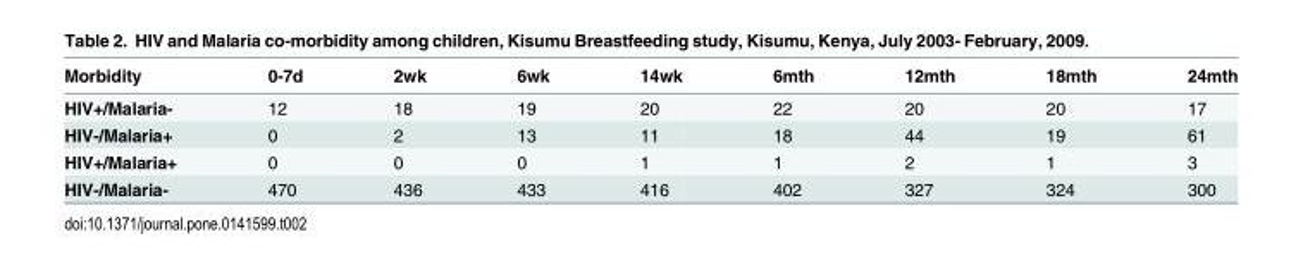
<table><thead><tr><td>Morbidity</td><td>0-7d</td><td>2wk</td><td>6wk</td><td>14wk</td><td>6mth</td><td>12mth</td><td>18mth</td><td>24mth</td></tr></thead><tbody><tr><td>HIV+/Malaria-</td><td>12</td><td>18</td><td>19</td><td>20</td><td>22</td><td>20</td><td>20</td><td>17</td></tr><tr><td>HIV-/Malaria+</td><td>0</td><td>2</td><td>13</td><td>11</td><td>18</td><td>44</td><td>19</td><td>61</td></tr><tr><td>HIV+/Malaria+</td><td>0</td><td>0</td><td>0</td><td>1</td><td>1</td><td>2</td><td>1</td><td>3</td></tr><tr><td>HIV-/Malaria-</td><td>470</td><td>436</td><td>433</td><td>416</td><td>402</td><td>327</td><td>324</td><td>300</td></tr></tbody></table>